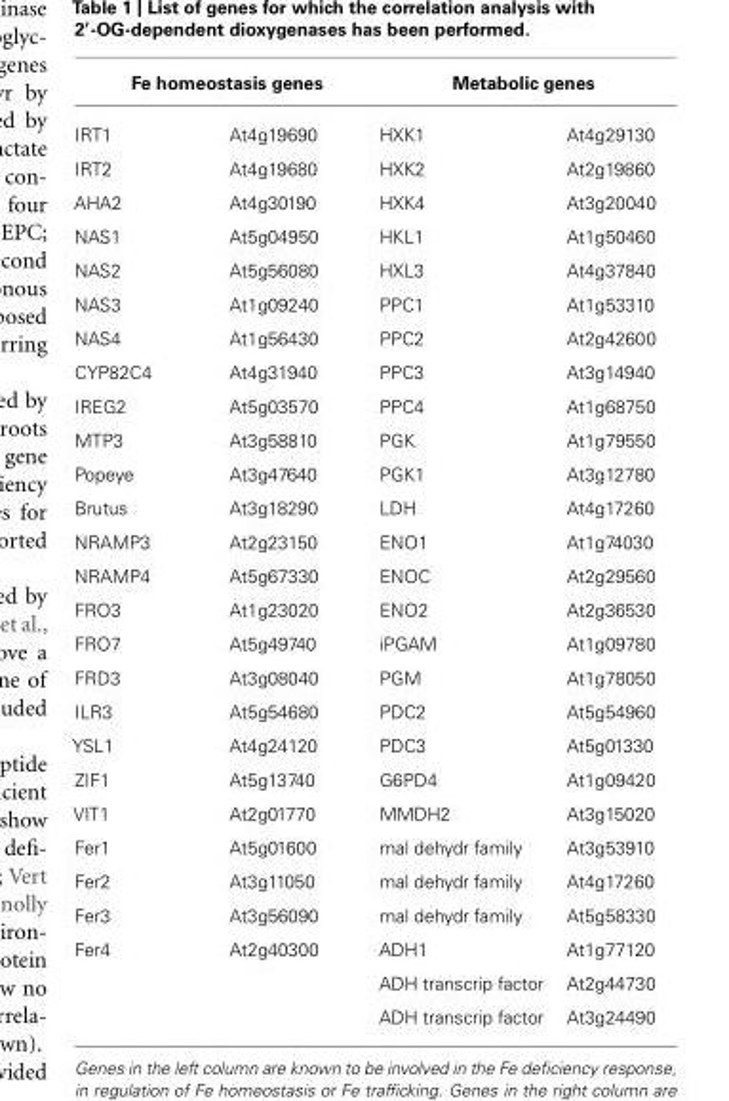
<table><thead><tr><td colspan="2">Fe homeostasis genes</td><td colspan="2">Metabolic genes</td></tr><tr><td>IRT1</td><td>At4g19690</td><td>HXK1</td><td>At4g29130</td></tr></thead><tbody><tr><td>IRT2</td><td>At4g19680</td><td>HXK2</td><td>At2g19860</td></tr><tr><td>AHA2</td><td>At4g30190</td><td>HXK4</td><td>At3g20040</td></tr><tr><td>NAS1</td><td>At5g04950</td><td>HKL1</td><td>At1g50460</td></tr><tr><td>NAS2</td><td>At5g56080</td><td>HXL3</td><td>At4g37840</td></tr><tr><td>NAS3</td><td>At1g09240</td><td>PPC1</td><td>At1g53310</td></tr><tr><td>NAS4</td><td>At1g56430</td><td>PPC2</td><td>At2g42600</td></tr><tr><td>CYP82C4</td><td>At4g31940</td><td>PPC3</td><td>At3g14940</td></tr><tr><td>IREG2</td><td>At5g03570</td><td>PPC4</td><td>At1g68750</td></tr><tr><td>MTP3</td><td>At3g58810</td><td>PGK</td><td>At1g79550</td></tr><tr><td>Popeye</td><td>At3g47640</td><td>PGK1</td><td>At3g12780</td></tr><tr><td>Brutus</td><td>At3g18290</td><td>LDH</td><td>At4g17260</td></tr><tr><td>NRAMP3</td><td>At2g23150</td><td>ENO1</td><td>At1g74030</td></tr><tr><td>NRAMP4</td><td>At5g67330</td><td>ENOC</td><td>At2g29560</td></tr><tr><td>FRO3</td><td>At1g23020</td><td>ENO2</td><td>At2g36530</td></tr><tr><td>FRO7</td><td>At5g49740</td><td>iPGAM</td><td>At1g09780</td></tr><tr><td>FRD3</td><td>At3g08040</td><td>PGM</td><td>At1g78050</td></tr><tr><td>ILR3</td><td>At5g54680</td><td>PDC2</td><td>At5g54960</td></tr><tr><td>YSL1</td><td>At4g24120</td><td>PDC3</td><td>At5g01330</td></tr><tr><td>ZIF1</td><td>At5g13740</td><td>G6PD4</td><td>At1g09420</td></tr><tr><td>VIT1</td><td>At2g01770</td><td>MMDH2</td><td>At3g15020</td></tr><tr><td>Fer1</td><td>At5g01600</td><td>mal dehydr family</td><td>At3g53910</td></tr><tr><td>Fer2</td><td>At3g11050</td><td>mal dehydr family</td><td>At4g17260</td></tr><tr><td>Fer3</td><td>At3g56090</td><td>mal dehydr family</td><td>At5g58330</td></tr><tr><td rowspan="3">Fer4</td><td>At2g40300</td><td>ADH1</td><td>At1g77120</td></tr><tr><td></td><td>ADH transcrip factor</td><td>At2g44730</td></tr><tr><td></td><td>ADH transcrip factor</td><td>At3g24490</td></tr></tbody></table>